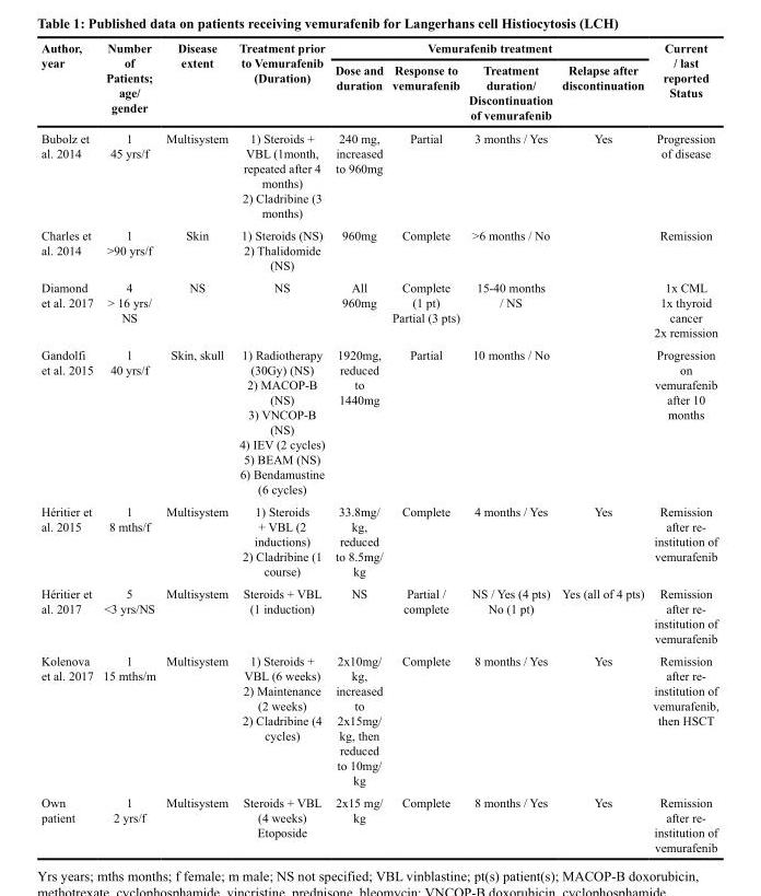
<table><thead><tr><td rowspan="2">Author, year</td><td rowspan="2">Number of Patients; age/ gender</td><td rowspan="2">Disease extent</td><td rowspan="2">Treatment prior to Vemurafenib (Duration)</td><td colspan="4">Vemurafenib treatment</td><td rowspan="2">Current / last reported Status</td></tr><tr><td>Dose and duration</td><td>Response to vemurafenib</td><td>Treatment duration/ Discontinuation of vemurafenib</td><td>Relapse after discontinuation</td></tr></thead><tbody><tr><td>Bubolz et al. 2014</td><td>1 45 yrs/f</td><td>Multisystem</td><td>1) Steroids + VBL (1month, repeated after 4 months) 2) Cladribine (3 months)</td><td>240 mg, increased to 960mg</td><td>Partial</td><td>3 months / Yes</td><td>Yes</td><td>Progression of disease</td></tr><tr><td>Charles et al. 2014</td><td>1 &gt;90 yrs/f</td><td>Skin</td><td>1) Steroids (NS) 2) Thalidomide (NS)</td><td>960mg</td><td>Complete</td><td>&gt;6 months / No</td><td></td><td>Remission</td></tr><tr><td>Diamond et al. 2017</td><td>4 &gt; 16 yrs/ NS</td><td>NS</td><td>NS</td><td>All 960mg</td><td>Complete (1 pt) Partial (3 pts)</td><td>15-40 months / NS</td><td></td><td>1x CML 1x thyroid cancer 2x remission</td></tr><tr><td>Gandolfi et al. 2015</td><td>1 40 yrs/f</td><td>Skin, skull</td><td>1) Radiotherapy (30Gy) (NS) 2) MACOP-B (NS) 3) VNCOP-B (NS) 4) IEV (2 cycles) 5) BEAM (NS) 6) Bendamustine (6 cycles)</td><td>1920mg, reduced to 1440mg</td><td>Partial</td><td>10 months / No</td><td></td><td>Progression on vemurafenib after 10 months</td></tr><tr><td>Héritier et al. 2015</td><td>1 8 mths/f</td><td>Multisystem</td><td>1) Steroids + VBL (2 inductions) 2) Cladribine (1 course)</td><td>33.8mg/ kg, reduced to 8.5mg/ kg</td><td>Complete</td><td>4 months / Yes</td><td>Yes</td><td>Remission after re- institution of vemurafenib</td></tr><tr><td>Héritier et al. 2017</td><td>5 &lt;3 yrs/NS</td><td>Multisystem</td><td>Steroids + VBL (1 induction)</td><td>NS</td><td>Partial / complete</td><td>NS / Yes (4 pts) No (1 pt)</td><td>Yes (all of 4 pts)</td><td>Remission after re- institution of vemurafenib</td></tr><tr><td>Kolenova et al. 2017</td><td>1 15 mths/m</td><td>Multisystem</td><td>1) Steroids + VBL (6 weeks) 2) Maintenance (2 weeks) 2) Cladribine (4 cycles)</td><td>2x10mg/ kg, increased to 2x15mg/ kg, then reduced to 10mg/ kg</td><td>Complete</td><td>8 months / Yes</td><td>Yes</td><td>Remission after re- institution of vemurafenib, then HSCT</td></tr><tr><td>Own patient</td><td>1 2 yrs/f</td><td>Multisystem</td><td>Steroids + VBL (4 weeks) Etoposide</td><td>2x15 mg/ kg</td><td>Complete</td><td>8 months / Yes</td><td>Yes</td><td>Remission after re- institution of vemurafenib</td></tr></tbody></table>